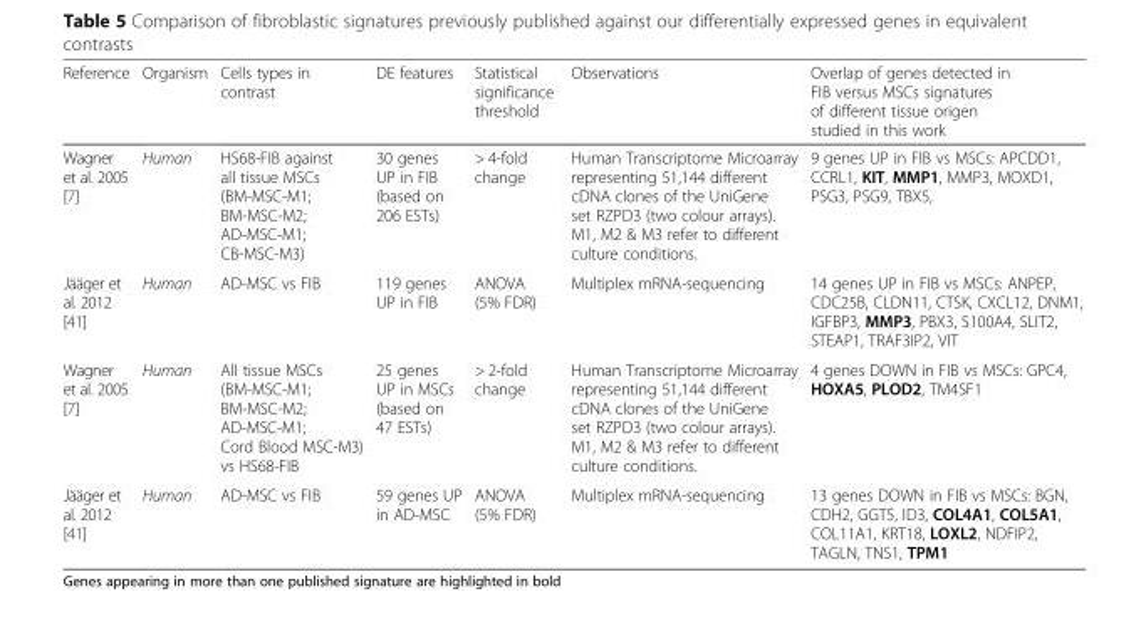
<table><thead><tr><td>Reference</td><td>Organism</td><td>Cells types in contrast</td><td>DE features</td><td>Statistical significance threshold</td><td>Observations</td><td>Overlap of genes detected in FIB versus MSCs signatures of different tissue origen studied in this work</td></tr></thead><tbody><tr><td>Wagner et al. 2005 [7]</td><td>Human</td><td>HS68-FIB against all tissue MSCs (BM-MSC-M1; BM-MSC-M2; AD-MSC-M1; CB-MSC-M3)</td><td>30 genes UP in FIB (based on 206 ESTs)</td><td>&gt; 4-fold change</td><td>Human Transcriptome Microarray representing 51,144 different cDNA clones of the UniGene set RZPD3 (two colour arrays). M1, M2 &amp; M3 refer to different culture conditions.</td><td>9 genes UP in FIB vs MSCs: APCDD1, CCRL1, KIT, MMP1, MMP3, MOXD1, PSG3, PSG9, TBX5,</td></tr><tr><td>Jääger et al. 2012 [41]</td><td>Human</td><td>AD-MSC vs FIB</td><td>119 genes UP in FIB</td><td>ANOVA (5% FDR)</td><td>Multiplex mRNA-sequencing</td><td>14 genes UP in FIB vs MSCs: ANPEP, CDC25B, CLDN11, CTSK, CXCL12, DNM1, IGFBP3, MMP3, PBX3, S100A4, SLIT2, STEAP1, TRAF3IP2, VIT</td></tr><tr><td>Wagner et al. 2005 [7]</td><td>Human</td><td>All tissue MSCs (BM-MSC-M1; BM-MSC-M2; AD-MSC-M1; Cord Blood MSC-M3) vs HS68-FIB</td><td>25 genes UP in MSCs (based on 47 ESTs)</td><td>&gt; 2-fold change</td><td>Human Transcriptome Microarray representing 51,144 different cDNA clones of the UniGene set RZPD3 (two colour arrays). M1, M2 &amp; M3 refer to different culture conditions.</td><td>4 genes DOWN in FIB vs MSCs: GPC4, HOXA5, PLOD2, TM4SF1</td></tr><tr><td>Jääger et al. 2012 [41]</td><td>Human</td><td>AD-MSC vs FIB</td><td>59 genes UP in AD-MSC</td><td>ANOVA (5% FDR)</td><td>Multiplex mRNA-sequencing</td><td>13 genes DOWN in FIB vs MSCs: BGN, CDH2, GGT5, ID3, COL4A1, COL5A1, COL11A1, KRT18, LOXL2, NDFIP2, TAGLN, TNS1, TPM1</td></tr></tbody></table>